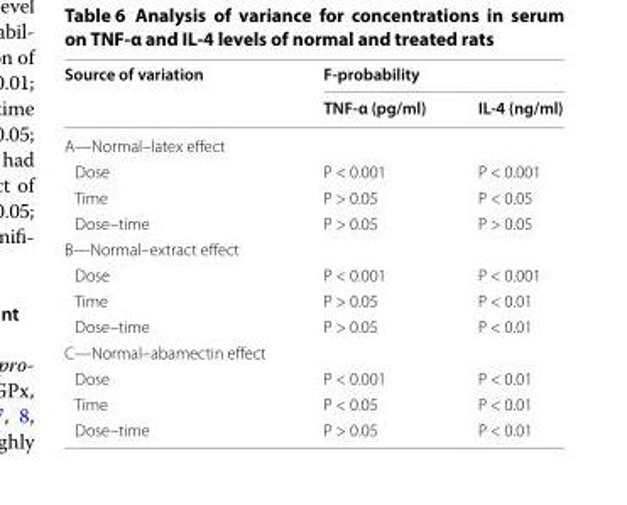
<table><thead><tr><td rowspan="2">Source of variation</td><td colspan="2">F-probability</td></tr><tr><td>TNF-α (pg/ml)</td><td>IL-4 (ng/ml)</td></tr></thead><tbody><tr><td colspan="3">A—Normal–latex effect</td></tr><tr><td>Dose</td><td>P &lt; 0.001</td><td>P &lt; 0.001</td></tr><tr><td>Time</td><td>P &gt; 0.05</td><td>P &lt; 0.05</td></tr><tr><td>Dose–time</td><td>P &gt; 0.05</td><td>P &gt; 0.05</td></tr><tr><td colspan="3">B—Normal–extract effect</td></tr><tr><td>Dose</td><td>P &lt; 0.001</td><td>P &lt; 0.001</td></tr><tr><td>Time</td><td>P &gt; 0.05</td><td>P &lt; 0.01</td></tr><tr><td>Dose–time</td><td>P &gt; 0.05</td><td>P &lt; 0.01</td></tr><tr><td colspan="3">C—Normal–abamectin effect</td></tr><tr><td>Dose</td><td>P &lt; 0.001</td><td>P &lt; 0.01</td></tr><tr><td>Time</td><td>P &lt; 0.05</td><td>P &lt; 0.01</td></tr><tr><td>Dose–time</td><td>P &gt; 0.05</td><td>P &lt; 0.01</td></tr></tbody></table>